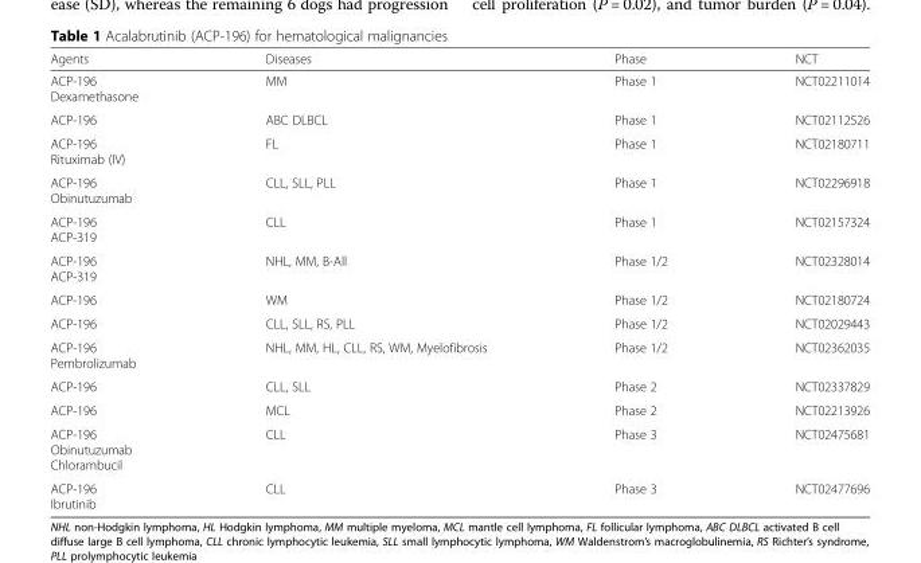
<table><thead><tr><td>Agents</td><td>Diseases</td><td>Phase</td><td>NCT</td></tr></thead><tbody><tr><td>ACP-196 Dexamethasone</td><td>MM</td><td>Phase 1</td><td>NCT02211014</td></tr><tr><td>ACP-196</td><td>ABC DLBCL</td><td>Phase 1</td><td>NCT02112526</td></tr><tr><td>ACP-196 Rituximab (IV)</td><td>FL</td><td>Phase 1</td><td>NCT02180711</td></tr><tr><td>ACP-196 Obinutuzumab</td><td>CLL, SLL, PLL</td><td>Phase 1</td><td>NCT02296918</td></tr><tr><td>ACP-196 ACP-319</td><td>CLL</td><td>Phase 1</td><td>NCT02157324</td></tr><tr><td>ACP-196 ACP-319</td><td>NHL, MM, B-All</td><td>Phase 1/2</td><td>NCT02328014</td></tr><tr><td>ACP-196</td><td>WM</td><td>Phase 1/2</td><td>NCT02180724</td></tr><tr><td>ACP-196</td><td>CLL, SLL, RS, PLL</td><td>Phase 1/2</td><td>NCT02029443</td></tr><tr><td>ACP-196 Pembrolizumab</td><td>NHL, MM, HL, CLL, RS, WM, Myelofibrosis</td><td>Phase 1/2</td><td>NCT02362035</td></tr><tr><td>ACP-196</td><td>CLL, SLL</td><td>Phase 2</td><td>NCT02337829</td></tr><tr><td>ACP-196</td><td>MCL</td><td>Phase 2</td><td>NCT02213926</td></tr><tr><td>ACP-196 Obinutuzumab Chlorambucil</td><td>CLL</td><td>Phase 3</td><td>NCT02475681</td></tr><tr><td>ACP-196 Ibrutinib</td><td>CLL</td><td>Phase 3</td><td>NCT02477696</td></tr></tbody></table>